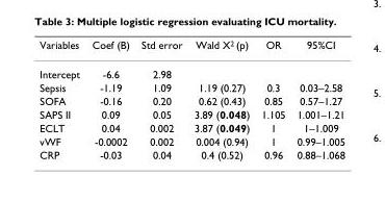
<table><thead><tr><td>Variables</td><td>Coef (B)</td><td>Std error</td><td>Wald X<sup>2</sup> (p)</td><td>OR</td><td>95%CI</td></tr></thead><tbody><tr><td>Intercept</td><td>-6.6</td><td>2.98</td><td></td><td></td><td></td></tr><tr><td>Sepsis</td><td>-1.19</td><td>1.09</td><td>1.19 (0.27)</td><td>0.3</td><td>0.03–2.58</td></tr><tr><td>SOFA</td><td>-0.16</td><td>0.20</td><td>0.62 (0.43)</td><td>0.85</td><td>0.57–1.27</td></tr><tr><td>SAPS II</td><td>0.09</td><td>0.05</td><td>3.89 (0.048)</td><td>1.105</td><td>1.001–1.21</td></tr><tr><td>ECLT</td><td>0.04</td><td>0.002</td><td>3.87 (0.049)</td><td>1</td><td>1–1.009</td></tr><tr><td>vWF</td><td>-0.0002</td><td>0.002</td><td>0.004 (0.94)</td><td>1</td><td>0.99–1.005</td></tr><tr><td>CRP</td><td>-0.03</td><td>0.04</td><td>0.4 (0.52)</td><td>0.96</td><td>0.88–1.068</td></tr></tbody></table>